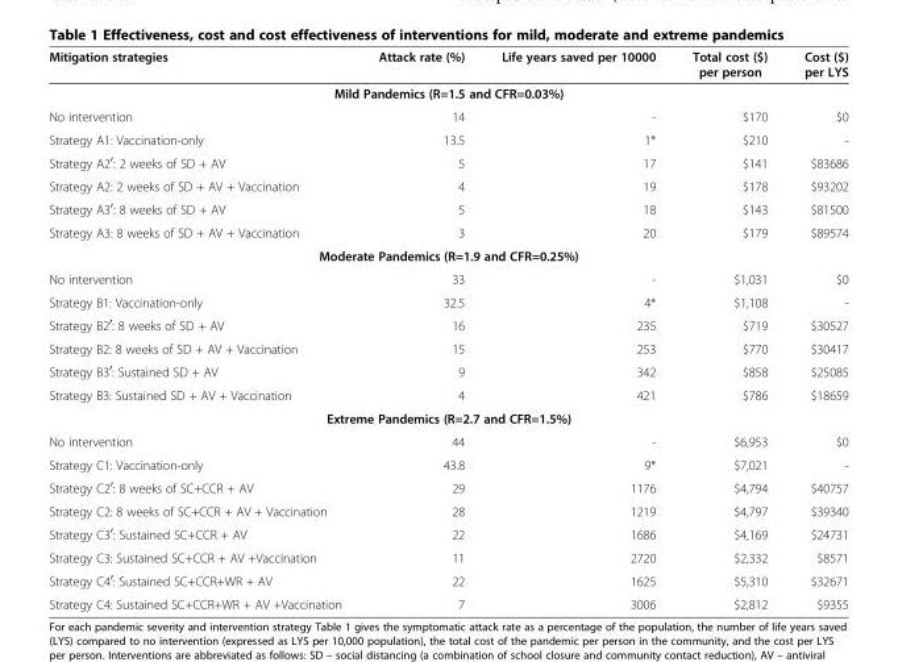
<table><thead><tr><td>Mitigation strategies</td><td>Attack rate (%)</td><td>Life years saved per 10000</td><td>Total cost ($) per person</td><td>Cost ($) per LYS</td></tr></thead><tbody><tr><td colspan="5">Mild Pandemics (R=1.5 and CFR=0.03%)</td></tr><tr><td>No intervention</td><td>14</td><td>-</td><td>$170</td><td>$0</td></tr><tr><td>Strategy A1: Vaccination-only</td><td>13.5</td><td>1*</td><td>$210</td><td>-</td></tr><tr><td>Strategy A2<sup>′</sup>: 2 weeks of SD + AV</td><td>5</td><td>17</td><td>$141</td><td>$83686</td></tr><tr><td>Strategy A2: 2 weeks of SD + AV + Vaccination</td><td>4</td><td>19</td><td>$178</td><td>$93202</td></tr><tr><td>Strategy A3<sup>′</sup>: 8 weeks of SD + AV</td><td>5</td><td>18</td><td>$143</td><td>$81500</td></tr><tr><td>Strategy A3: 8 weeks of SD + AV + Vaccination</td><td>3</td><td>20</td><td>$179</td><td>$89574</td></tr><tr><td colspan="5">Moderate Pandemics (R=1.9 and CFR=0.25%)</td></tr><tr><td>No intervention</td><td>33</td><td>-</td><td>$1,031</td><td>$0</td></tr><tr><td>Strategy B1: Vaccination-only</td><td>32.5</td><td>4*</td><td>$1,108</td><td>-</td></tr><tr><td>Strategy B2<sup>′</sup>: 8 weeks of SD + AV</td><td>16</td><td>235</td><td>$719</td><td>$30527</td></tr><tr><td>Strategy B2: 8 weeks of SD + AV + Vaccination</td><td>15</td><td>253</td><td>$770</td><td>$30417</td></tr><tr><td>Strategy B3<sup>′</sup>: Sustained SD + AV</td><td>9</td><td>342</td><td>$858</td><td>$25085</td></tr><tr><td>Strategy B3: Sustained SD + AV + Vaccination</td><td>4</td><td>421</td><td>$786</td><td>$18659</td></tr><tr><td colspan="5">Extreme Pandemics (R=2.7 and CFR=1.5%)</td></tr><tr><td>No intervention</td><td>44</td><td>-</td><td>$6,953</td><td>$0</td></tr><tr><td>Strategy C1: Vaccination-only</td><td>43.8</td><td>9*</td><td>$7,021</td><td>-</td></tr><tr><td>Strategy C2<sup>′</sup>: 8 weeks of SC+CCR + AV</td><td>29</td><td>1176</td><td>$4,794</td><td>$40757</td></tr><tr><td>Strategy C2: 8 weeks of SC+CCR + AV + Vaccination</td><td>28</td><td>1219</td><td>$4,797</td><td>$39340</td></tr><tr><td>Strategy C3<sup>′</sup>: Sustained SC+CCR + AV</td><td>22</td><td>1686</td><td>$4,169</td><td>$24731</td></tr><tr><td>Strategy C3: Sustained SC+CCR + AV +Vaccination</td><td>11</td><td>2720</td><td>$2,332</td><td>$8571</td></tr><tr><td>Strategy C4<sup>′</sup>: Sustained SC+CCR+WR + AV</td><td>22</td><td>1625</td><td>$5,310</td><td>$32671</td></tr><tr><td>Strategy C4: Sustained SC+CCR+WR + AV +Vaccination</td><td>7</td><td>3006</td><td>$2,812</td><td>$9355</td></tr></tbody></table>